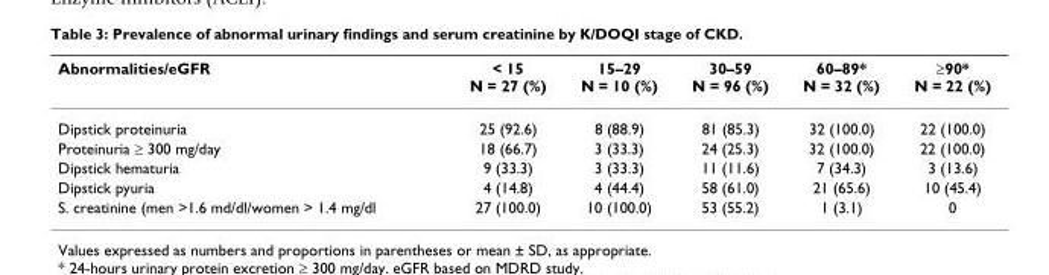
<table><thead><tr><td>Abnormalities/eGFR</td><td>&lt; 15 N = 27 (%)</td><td>15–29 N = 10 (%)</td><td>30–59 N = 96 (%)</td><td>60–89* N = 32 (%)</td><td>≥90* N = 22 (%)</td></tr></thead><tbody><tr><td>Dipstick proteinuria</td><td>25 (92.6)</td><td>8 (88.9)</td><td>81 (85.3)</td><td>32 (100.0)</td><td>22 (100.0)</td></tr><tr><td>Proteinuria ≥ 300 mg/day</td><td>18 (66.7)</td><td>3 (33.3)</td><td>24 (25.3)</td><td>32 (100.0)</td><td>22 (100.0)</td></tr><tr><td>Dipstick hematuria</td><td>9 (33.3)</td><td>3 (33.3)</td><td>11 (11.6)</td><td>7 (34.3)</td><td>3 (13.6)</td></tr><tr><td>Dipstick pyuria</td><td>4 (14.8)</td><td>4 (44.4)</td><td>58 (61.0)</td><td>21 (65.6)</td><td>10 (45.4)</td></tr><tr><td>S. creatinine (men &gt;1.6 md/dl/women &gt; 1.4 mg/dl</td><td>27 (100.0)</td><td>10 (100.0)</td><td>53 (55.2)</td><td>1 (3.1)</td><td>0</td></tr></tbody></table>